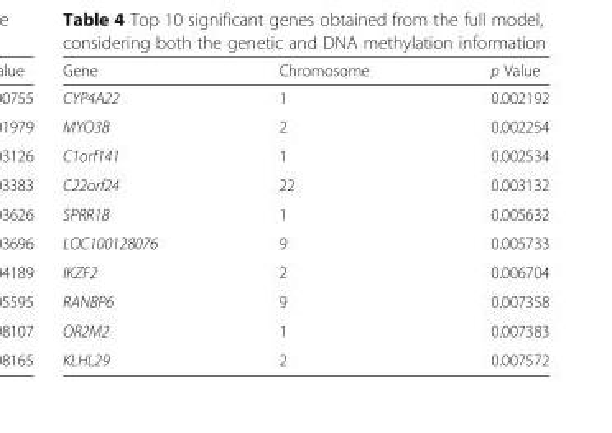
<table><thead><tr><td>Gene</td><td>Chromosome</td><td>p Value</td></tr></thead><tbody><tr><td>CYP4A22</td><td>1</td><td>0.002192</td></tr><tr><td>MYO3B</td><td>2</td><td>0.002254</td></tr><tr><td>C1orf141</td><td>1</td><td>0.002534</td></tr><tr><td>C22orf24</td><td>22</td><td>0.003132</td></tr><tr><td>SPRR1B</td><td>1</td><td>0.005632</td></tr><tr><td>LOC100128076</td><td>9</td><td>0.005733</td></tr><tr><td>IKZF2</td><td>2</td><td>0.006704</td></tr><tr><td>RANBP6</td><td>9</td><td>0.007358</td></tr><tr><td>OR2M2</td><td>1</td><td>0.007383</td></tr><tr><td>KLHL29</td><td>2</td><td>0.007572</td></tr></tbody></table>